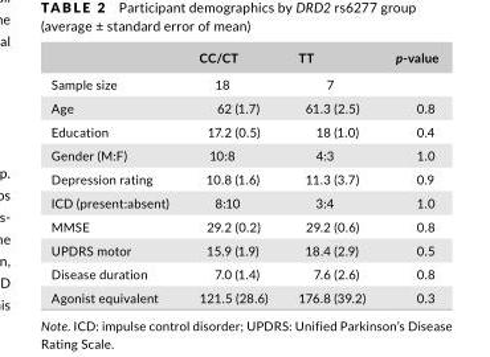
<table><thead><tr><td></td><td>CC/CT</td><td>TT</td><td>p- value</td></tr></thead><tbody><tr><td>Sample size</td><td>18</td><td>7</td><td></td></tr><tr><td>Age</td><td>62 (1.7)</td><td>61.3 (2.5)</td><td>0.8</td></tr><tr><td>Education</td><td>17.2 (0.5)</td><td>18 (1.0)</td><td>0.4</td></tr><tr><td>Gender (M:F)</td><td>10:8</td><td>4:3</td><td>1.0</td></tr><tr><td>Depression rating</td><td>10.8 (1.6)</td><td>11.3 (3.7)</td><td>0.9</td></tr><tr><td>ICD (present:absent)</td><td>8:10</td><td>3:4</td><td>1.0</td></tr><tr><td>MMSE</td><td>29.2 (0.2)</td><td>29.2 (0.6)</td><td>0.8</td></tr><tr><td>UPDRS motor</td><td>15.9 (1.9)</td><td>18.4 (2.9)</td><td>0.5</td></tr><tr><td>Disease duration</td><td>7.0 (1.4)</td><td>7.6 (2.6)</td><td>0.8</td></tr><tr><td>Agonist equivalent</td><td>121.5 (28.6)</td><td>176.8 (39.2)</td><td>0.3</td></tr></tbody></table>